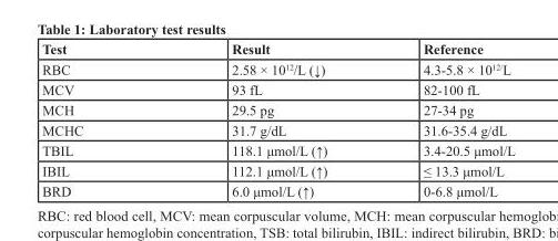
<table><thead><tr><td>Test</td><td>Result</td><td>Reference</td></tr></thead><tbody><tr><td>RBC</td><td>2.58 × 1012/L (↓)</td><td>4.3-5.8 × 1012/L</td></tr><tr><td>MCV</td><td>93 fL</td><td>82-100 fL</td></tr><tr><td>MCH</td><td>29.5 pg</td><td>27-34 pg</td></tr><tr><td>MCHC</td><td>31.7 g/dL</td><td>31.6-35.4 g/dL</td></tr><tr><td>TBIL</td><td>118.1 μmol/L (↑)</td><td>3.4-20.5 μmol/L</td></tr><tr><td>IBIL</td><td>112.1 μmol/L (↑)</td><td>≤ 13.3 μmol/L</td></tr><tr><td>BRD</td><td>6.0 μmol/L (↑)</td><td>0-6.8 μmol/L</td></tr></tbody></table>